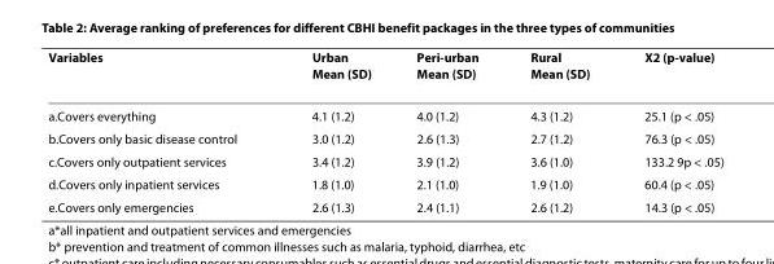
<table><thead><tr><td>Variables</td><td>Urban Mean (SD)</td><td>Peri-urban Mean (SD)</td><td>Rural Mean (SD)</td><td>X2 (p-value)</td></tr></thead><tbody><tr><td>a.Covers everything</td><td>4.1 (1.2)</td><td>4.0 (1.2)</td><td>4.3 (1.2)</td><td>25.1 (p &lt; .05)</td></tr><tr><td>b.Covers only basic disease control</td><td>3.0 (1.2)</td><td>2.6 (1.3)</td><td>2.7 (1.2)</td><td>76.3 (p &lt; .05)</td></tr><tr><td>c.Covers only outpatient services</td><td>3.4 (1.2)</td><td>3.9 (1.2)</td><td>3.6 (1.0)</td><td>133.2 9p &lt; .05)</td></tr><tr><td>d.Covers only inpatient services</td><td>1.8 (1.0)</td><td>2.1 (1.0)</td><td>1.9 (1.0)</td><td>60.4 (p &lt; .05)</td></tr><tr><td>e.Covers only emergencies</td><td>2.6 (1.3)</td><td>2.4 (1.1)</td><td>2.6 (1.2)</td><td>14.3 (p &lt; .05)</td></tr></tbody></table>